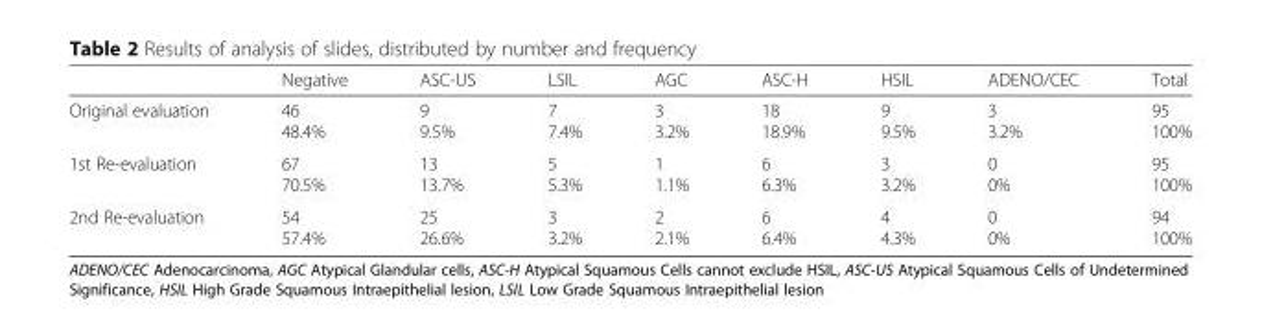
<table><thead><tr><td></td><td>Negative</td><td>ASC-US</td><td>LSIL</td><td>AGC</td><td>ASC-H</td><td>HSIL</td><td>ADENO/CEC</td><td>Total</td></tr></thead><tbody><tr><td>Original evaluation</td><td>46 48.4%</td><td>9 9.5%</td><td>7 7.4%</td><td>3 3.2%</td><td>18 18.9%</td><td>9 9.5%</td><td>3 3.2%</td><td>95 100%</td></tr><tr><td>1st Re-evaluation</td><td>67 70.5%</td><td>13 13.7%</td><td>5 5.3%</td><td>1 1.1%</td><td>6 6.3%</td><td>3 3.2%</td><td>0 0%</td><td>95 100%</td></tr><tr><td>2nd Re-evaluation</td><td>54 57.4%</td><td>25 26.6%</td><td>3 3.2%</td><td>2 2.1%</td><td>6 6.4%</td><td>4 4.3%</td><td>0 0%</td><td>94 100%</td></tr></tbody></table>